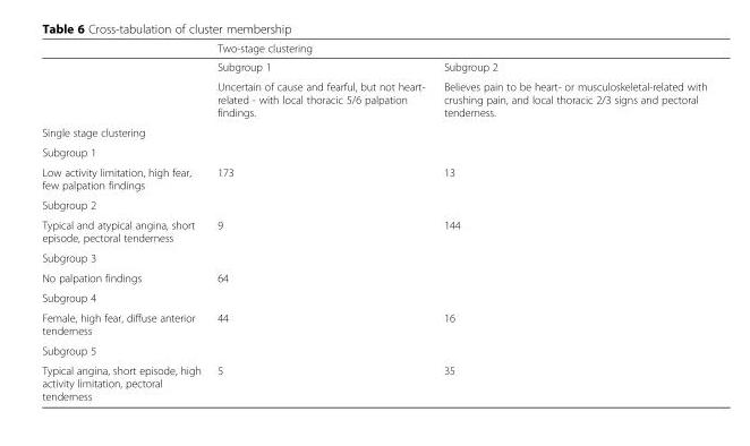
<table><thead><tr><td rowspan="2"></td><td colspan="2">Two-stage clustering</td></tr><tr><td>Subgroup 1</td><td>Subgroup 2</td></tr></thead><tbody><tr><td></td><td>Uncertain of cause and fearful, but not heart- related - with local thoracic 5/6 palpation findings.</td><td>Believes pain to be heart- or musculoskeletal-related with crushing pain, and local thoracic 2/3 signs and pectoral tenderness.</td></tr><tr><td colspan="3">Single stage clustering</td></tr><tr><td colspan="3">Subgroup 1</td></tr><tr><td>Low activity limitation, high fear, few palpation findings</td><td>173</td><td>13</td></tr><tr><td colspan="3">Subgroup 2</td></tr><tr><td>Typical and atypical angina, short episode, pectoral tenderness</td><td>9</td><td>144</td></tr><tr><td colspan="3">Subgroup 3</td></tr><tr><td>No palpation findings</td><td>64</td><td></td></tr><tr><td colspan="3">Subgroup 4</td></tr><tr><td>Female, high fear, diffuse anterior tenderness</td><td>44</td><td>16</td></tr><tr><td colspan="3">Subgroup 5</td></tr><tr><td>Typical angina, short episode, high activity limitation, pectoral tenderness</td><td>5</td><td>35</td></tr></tbody></table>